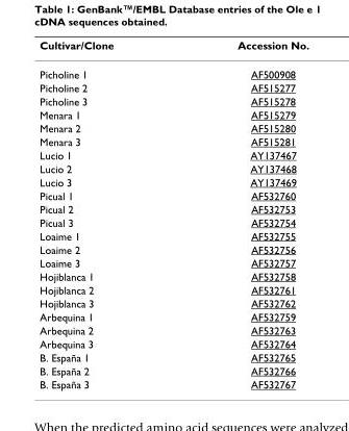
<table><thead><tr><td>Cultivar/Clone</td><td>Accession No.</td></tr></thead><tbody><tr><td>Picholine 1</td><td>AF500908</td></tr><tr><td>Picholine 2</td><td>AF515277</td></tr><tr><td>Picholine 3</td><td>AF515278</td></tr><tr><td>Menara 1</td><td>AF515279</td></tr><tr><td>Menara 2</td><td>AF515280</td></tr><tr><td>Menara 3</td><td>AF515281</td></tr><tr><td>Lucio 1</td><td>AY137467</td></tr><tr><td>Lucio 2</td><td>AY137468</td></tr><tr><td>Lucio 3</td><td>AY137469</td></tr><tr><td>Picual 1</td><td>AF532760</td></tr><tr><td>Picual 2</td><td>AF532753</td></tr><tr><td>Picual 3</td><td>AF532754</td></tr><tr><td>Loaime 1</td><td>AF532755</td></tr><tr><td>Loaime 2</td><td>AF532756</td></tr><tr><td>Loaime 3</td><td>AF532757</td></tr><tr><td>Hojiblanca 1</td><td>AF532758</td></tr><tr><td>Hojiblanca 2</td><td>AF532761</td></tr><tr><td>Hojiblanca 3</td><td>AF532762</td></tr><tr><td>Arbequina 1</td><td>AF532759</td></tr><tr><td>Arbequina 2</td><td>AF532763</td></tr><tr><td>Arbequina 3</td><td>AF532764</td></tr><tr><td>B. España 1</td><td>AF532765</td></tr><tr><td>B. España 2</td><td>AF532766</td></tr><tr><td>B. España 3</td><td>AF532767</td></tr></tbody></table>